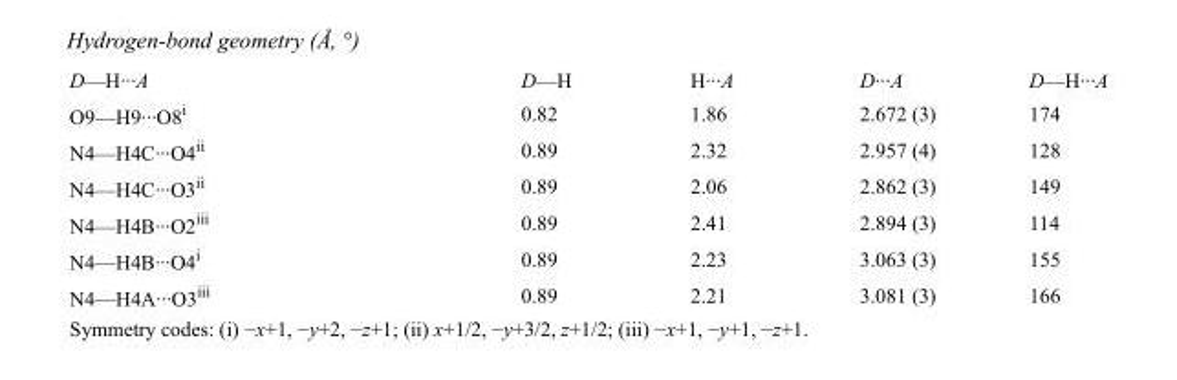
<table><tbody><tr><td>D—H···A</td><td>D—H</td><td>H···A</td><td>D···A</td><td>D—H···A</td></tr><tr><td>O9—H9···O8<sup>i</sup></td><td>0.82</td><td>1.86</td><td>2.672 (3)</td><td>174</td></tr><tr><td>N4—H4C···O4<sup>ii</sup></td><td>0.89</td><td>2.32</td><td>2.957 (4)</td><td>128</td></tr><tr><td>N4—H4C···O3<sup>ii</sup></td><td>0.89</td><td>2.06</td><td>2.862 (3)</td><td>149</td></tr><tr><td>N4—H4B···O2<sup>iii</sup></td><td>0.89</td><td>2.41</td><td>2.894 (3)</td><td>114</td></tr><tr><td>N4—H4B···O4<sup>i</sup></td><td>0.89</td><td>2.23</td><td>3.063 (3)</td><td>155</td></tr><tr><td>N4—H4A···O3<sup>iii</sup></td><td>0.89</td><td>2.21</td><td>3.081 (3)</td><td>166</td></tr></tbody></table>